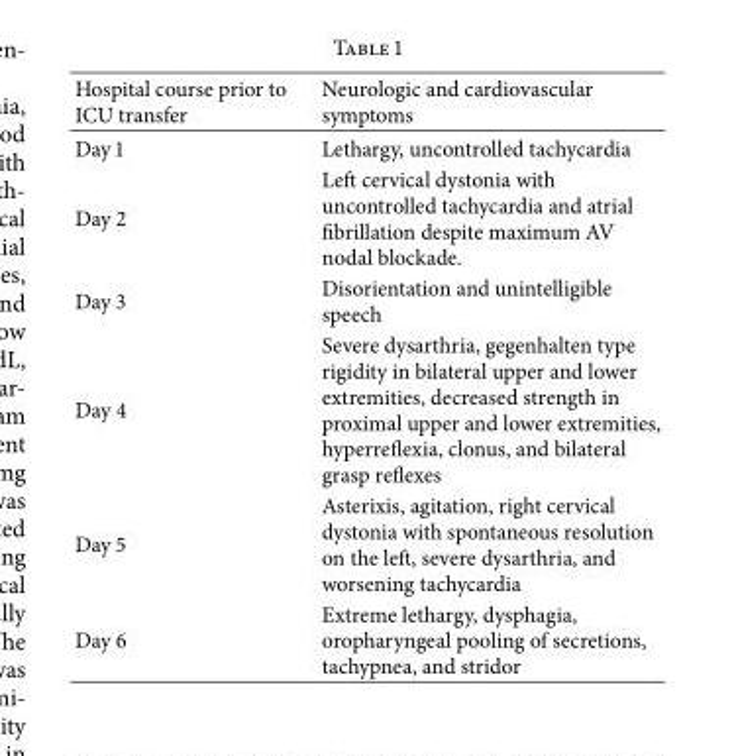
<table><thead><tr><td>Hospital course prior to ICU transfer</td><td>Neurologic and cardiovascular symptoms</td></tr></thead><tbody><tr><td>Day 1</td><td>Lethargy, uncontrolled tachycardia</td></tr><tr><td>Day 2</td><td>Left cervical dystonia with uncontrolled tachycardia and atrial fibrillation despite maximum AV nodal blockade.</td></tr><tr><td>Day 3</td><td>Disorientation and unintelligible speech</td></tr><tr><td>Day 4</td><td>Severe dysarthria, gegenhalten type rigidity in bilateral upper and lower extremities, decreased strength in proximal upper and lower extremities, hyperreflexia, clonus, and bilateral grasp reflexes</td></tr><tr><td>Day 5</td><td>Asterixis, agitation, right cervical dystonia with spontaneous resolution on the left, severe dysarthria, and worsening tachycardia</td></tr><tr><td>Day 6</td><td>Extreme lethargy, dysphagia, oropharyngeal pooling of secretions, tachypnea, and stridor</td></tr></tbody></table>